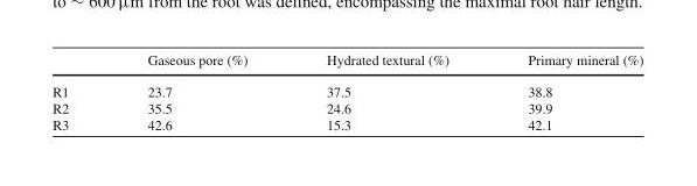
<table><thead><tr><td></td><td>Gaseous pore (%)</td><td>Hydrated textural (%)</td><td>Primary mineral (%)</td></tr></thead><tbody><tr><td>R1</td><td>23.7</td><td>37.5</td><td>38.8</td></tr><tr><td>R2</td><td>35.5</td><td>24.6</td><td>39.9</td></tr><tr><td>R3</td><td>42.6</td><td>15.3</td><td>42.1</td></tr></tbody></table>